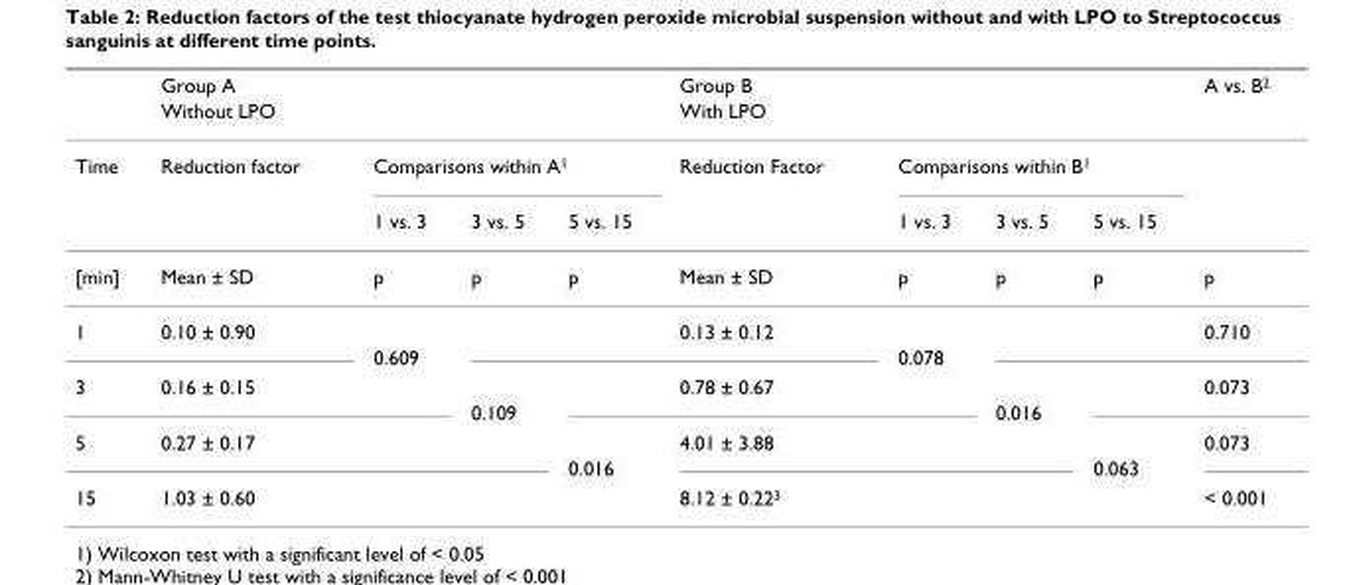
<table><thead><tr><td rowspan="4">Time</td><td rowspan="2" colspan="4">Group A Without LPO</td><td rowspan="2" colspan="4">Group B With LPO</td><td rowspan="4">A vs. B2</td></tr><tr></tr><tr><td rowspan="2">Reduction factor</td><td colspan="3">Comparisons within A1</td><td rowspan="2">Reduction Factor</td><td colspan="3">Comparisons within B1</td></tr><tr><td>1 vs. 3</td><td>3 vs. 5</td><td>5 vs. 15</td><td>1 vs. 3</td><td>3 vs. 5</td><td>5 vs. 15</td></tr></thead><tbody><tr><td>[min]</td><td>Mean ± SD</td><td>p</td><td>p</td><td>p</td><td>Mean ± SD</td><td>p</td><td>p</td><td>p</td><td>p</td></tr><tr><td>1</td><td>0.10 ± 0.90</td><td></td><td></td><td></td><td>0.13 ± 0.12</td><td></td><td></td><td></td><td>0.710</td></tr><tr><td colspan="2"></td><td>0.609</td><td colspan="3"></td><td>0.078</td><td colspan="3"></td></tr><tr><td>3</td><td>0.16 ± 0.15</td><td></td><td></td><td></td><td>0.78 ± 0.67</td><td></td><td></td><td></td><td>0.073</td></tr><tr><td colspan="3"></td><td>0.109</td><td colspan="3"></td><td>0.016</td><td colspan="2"></td></tr><tr><td>5</td><td>0.27 ± 0.17</td><td></td><td></td><td></td><td>4.01 ± 3.88</td><td></td><td></td><td></td><td>0.073</td></tr><tr><td colspan="4"></td><td>0.016</td><td colspan="3"></td><td>0.063</td><td></td></tr><tr><td>15</td><td>1.03 ± 0.60</td><td></td><td></td><td></td><td>8.12 ± 0.22<sup>3</sup></td><td></td><td></td><td></td><td>&lt; 0.001</td></tr></tbody></table>